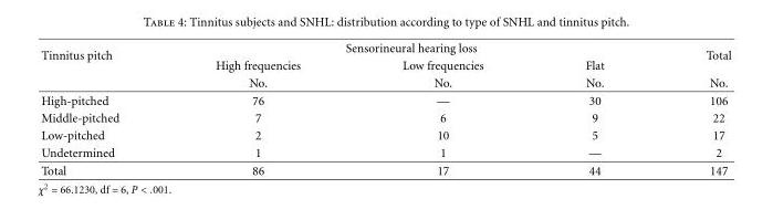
<table><thead><tr><td rowspan="3">Tinnitus pitch</td><td colspan="3">Sensorineural hearing loss</td><td rowspan="3">Total No.</td></tr><tr><td rowspan="2">High frequencies No.</td><td rowspan="2">Low frequencies No.</td><td rowspan="2">Flat No.</td></tr><tr></tr></thead><tbody><tr><td>High-pitched</td><td>76</td><td>—</td><td>30</td><td>106</td></tr><tr><td>Middle-pitched</td><td>7</td><td>6</td><td>9</td><td>22</td></tr><tr><td>Low-pitched</td><td>2</td><td>10</td><td>5</td><td>17</td></tr><tr><td>Undetermined</td><td>1</td><td>1</td><td>—</td><td>2</td></tr><tr><td>Total</td><td>86</td><td>17</td><td>44</td><td>147</td></tr></tbody></table>